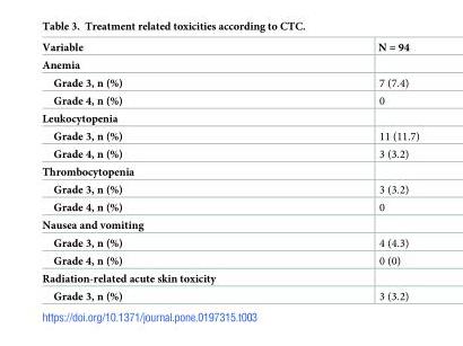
<table><thead><tr><td>Variable</td><td>N = 94</td></tr></thead><tbody><tr><td colspan="2">Anemia</td></tr><tr><td>Grade 3, n (%)</td><td>7 (7.4)</td></tr><tr><td>Grade 4, n (%)</td><td>0</td></tr><tr><td colspan="2">Leukocytopenia</td></tr><tr><td>Grade 3, n (%)</td><td>11 (11.7)</td></tr><tr><td>Grade 4, n (%)</td><td>3 (3.2)</td></tr><tr><td colspan="2">Thrombocytopenia</td></tr><tr><td>Grade 3, n (%)</td><td>3 (3.2)</td></tr><tr><td>Grade 4, n (%)</td><td>0</td></tr><tr><td colspan="2">Nausea and vomiting</td></tr><tr><td>Grade 3, n (%)</td><td>4 (4.3)</td></tr><tr><td>Grade 4, n (%)</td><td>0 (0)</td></tr><tr><td colspan="2">Radiation-related acute skin toxicity</td></tr><tr><td>Grade 3, n (%)</td><td>3 (3.2)</td></tr></tbody></table>